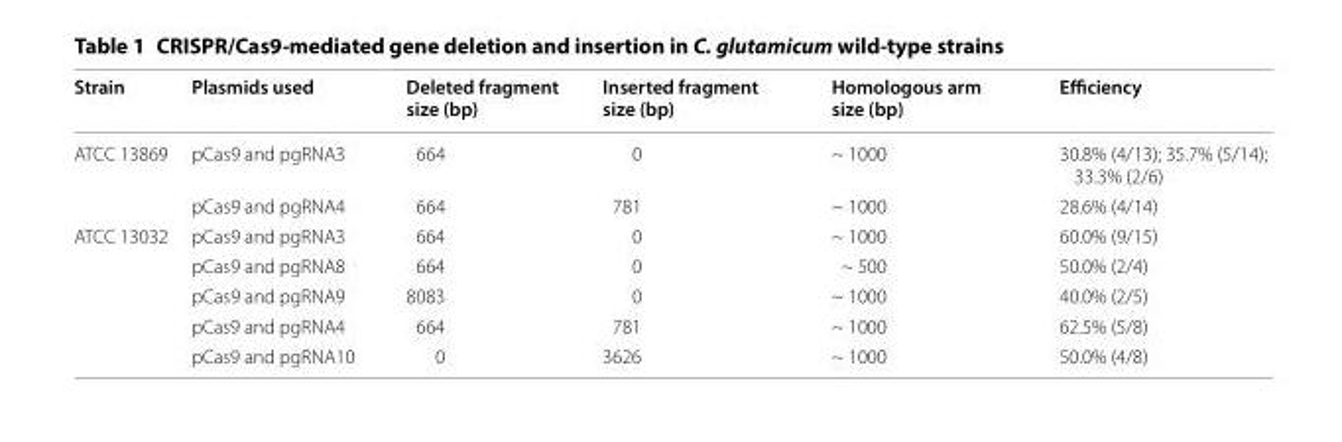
<table><thead><tr><td>Strain</td><td>Plasmids used</td><td>Deleted fragment size (bp)</td><td>Inserted fragment size (bp)</td><td>Homologous arm size (bp)</td><td>Efficiency</td></tr></thead><tbody><tr><td rowspan="2">ATCC 13869</td><td>pCas9 and pgRNA3</td><td>664</td><td>0</td><td>~ 1000</td><td>30.8% (4/13); 35.7% (5/14); 33.3% (2/6)</td></tr><tr><td>pCas9 and pgRNA4</td><td>664</td><td>781</td><td>~ 1000</td><td>28.6% (4/14)</td></tr><tr><td rowspan="5">ATCC 13032</td><td>pCas9 and pgRNA3</td><td>664</td><td>0</td><td>~ 1000</td><td>60.0% (9/15)</td></tr><tr><td>pCas9 and pgRNA8</td><td>664</td><td>0</td><td>~ 500</td><td>50.0% (2/4)</td></tr><tr><td>pCas9 and pgRNA9</td><td>8083</td><td>0</td><td>~ 1000</td><td>40.0% (2/5)</td></tr><tr><td>pCas9 and pgRNA4</td><td>664</td><td>781</td><td>~ 1000</td><td>62.5% (5/8)</td></tr><tr><td>pCas9 and pgRNA10</td><td>0</td><td>3626</td><td>~ 1000</td><td>50.0% (4/8)</td></tr></tbody></table>